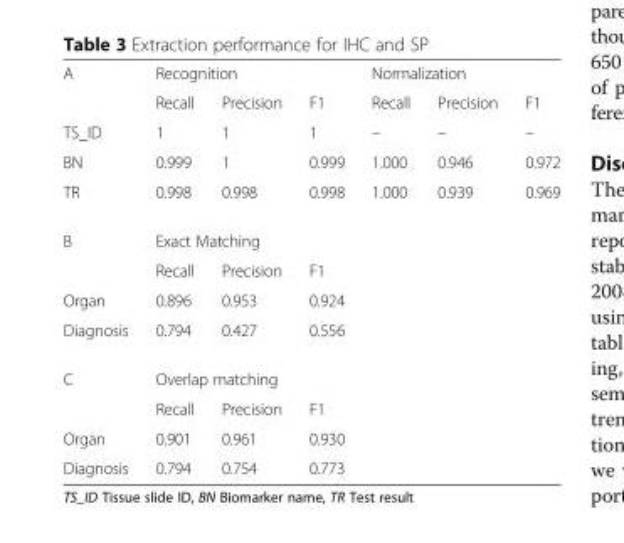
<table><tbody><tr><td rowspan="2">A</td><td colspan="3">Recognition</td><td colspan="3">Normalization</td></tr><tr><td>Recall</td><td>Precision</td><td>F1</td><td>Recall</td><td>Precision</td><td>F1</td></tr><tr><td>TS_ID</td><td>1</td><td>1</td><td>1</td><td>–</td><td>–</td><td>–</td></tr><tr><td>BN</td><td>0.999</td><td>1</td><td>0.999</td><td>1.000</td><td>0.946</td><td>0.972</td></tr><tr><td>TR</td><td>0.998</td><td>0.998</td><td>0.998</td><td>1.000</td><td>0.939</td><td>0.969</td></tr><tr><td rowspan="2">B</td><td colspan="3">Exact Matching</td><td></td><td></td><td></td></tr><tr><td>Recall</td><td>Precision</td><td>F1</td><td></td><td></td><td></td></tr><tr><td>Organ</td><td>0.896</td><td>0.953</td><td>0.924</td><td></td><td></td><td></td></tr><tr><td>Diagnosis</td><td>0.794</td><td>0.427</td><td>0.556</td><td></td><td></td><td></td></tr><tr><td rowspan="2">C</td><td colspan="3">Overlap matching</td><td></td><td></td><td></td></tr><tr><td>Recall</td><td>Precision</td><td>F1</td><td></td><td></td><td></td></tr><tr><td>Organ</td><td>0.901</td><td>0.961</td><td>0.930</td><td></td><td></td><td></td></tr><tr><td>Diagnosis</td><td>0.794</td><td>0.754</td><td>0.773</td><td></td><td></td><td></td></tr></tbody></table>